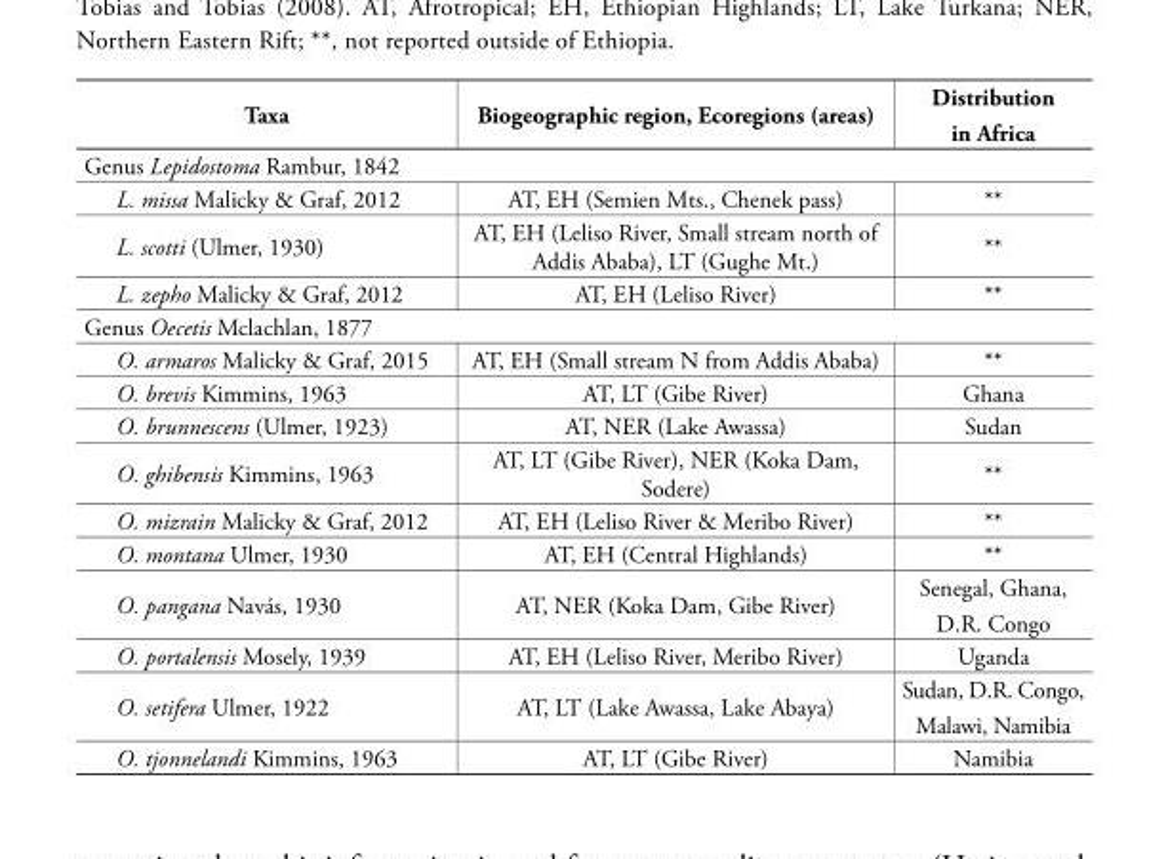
<table><thead><tr><td>Taxa</td><td>Biogeographic region, Ecoregions (areas)</td><td>Distribution in Africa</td></tr></thead><tbody><tr><td colspan="3">Genus Lepidostoma Rambur, 1842</td></tr><tr><td>L. missa Malicky &amp; Graf, 2012</td><td>AT, EH (Semien Mts., Chenek pass)</td><td>**</td></tr><tr><td>L. scotti (Ulmer, 1930)</td><td>AT, EH (Leliso River, Small stream north of Addis Ababa), LT (Gughe Mt.)</td><td>**</td></tr><tr><td>L. zepho Malicky &amp; Graf, 2012</td><td>AT, EH (Leliso River)</td><td>**</td></tr><tr><td colspan="3">Genus Oecetis Mclachlan, 1877</td></tr><tr><td>O. armaros Malicky &amp; Graf, 2015</td><td>AT, EH (Small stream N from Addis Ababa)</td><td>**</td></tr><tr><td>O. brevis Kimmins, 1963</td><td>AT, LT (Gibe River)</td><td>Ghana</td></tr><tr><td>O. brunnescens (Ulmer, 1923)</td><td>AT, NER (Lake Awassa)</td><td>Sudan</td></tr><tr><td>O. ghibensis Kimmins, 1963</td><td>AT, LT (Gibe River), NER (Koka Dam, Sodere)</td><td>**</td></tr><tr><td>O. mizrain Malicky &amp; Graf, 2012</td><td>AT, EH (Leliso River &amp; Meribo River)</td><td>**</td></tr><tr><td>O. montana Ulmer, 1930</td><td>AT, EH (Central Highlands)</td><td>**</td></tr><tr><td>O. pangana Navás, 1930</td><td>AT, NER (Koka Dam, Gibe River)</td><td>Senegal, Ghana, D.R. Congo</td></tr><tr><td>O. portalensis Mosely, 1939</td><td>AT, EH (Leliso River, Meribo River)</td><td>Uganda</td></tr><tr><td>O. setifera Ulmer, 1922</td><td>AT, LT (Lake Awassa, Lake Abaya)</td><td>Sudan, D.R. Congo, Malawi, Namibia</td></tr><tr><td>O. tjonnelandi Kimmins, 1963</td><td>AT, LT (Gibe River)</td><td>Namibia</td></tr></tbody></table>